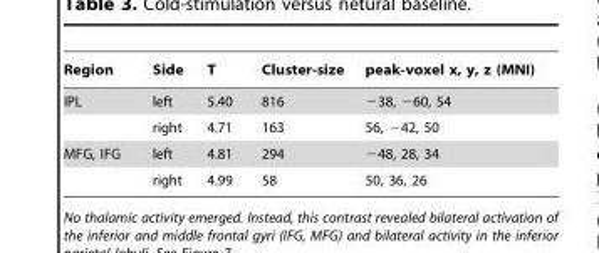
<table><thead><tr><td>Region</td><td>Side</td><td>T</td><td>Cluster-size</td><td>peak-voxel x, y, z (MNI)</td></tr></thead><tbody><tr><td rowspan="2">IPL</td><td>left</td><td>5.40</td><td>816</td><td>−38, −60, 54</td></tr><tr><td>right</td><td>4.71</td><td>163</td><td>56, −42, 50</td></tr><tr><td rowspan="2">MFG, IFG</td><td>left</td><td>4.81</td><td>294</td><td>−48, 28, 34</td></tr><tr><td>right</td><td>4.99</td><td>58</td><td>50, 36, 26</td></tr></tbody></table>